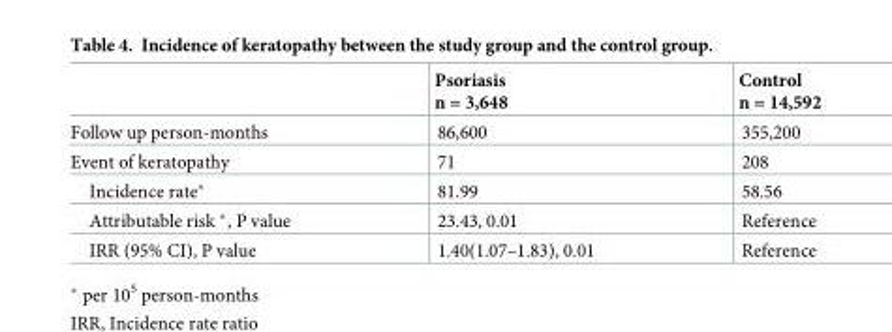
<table><thead><tr><td></td><td>Psoriasis n = 3,648</td><td>Control n = 14,592</td></tr></thead><tbody><tr><td>Follow up person-months</td><td>86,600</td><td>355,200</td></tr><tr><td>Event of keratopathy</td><td>71</td><td>208</td></tr><tr><td>Incidence rate*</td><td>81.99</td><td>58.56</td></tr><tr><td>Attributable risk *, P value</td><td>23.43, 0.01</td><td>Reference</td></tr><tr><td>IRR (95% CI), P value</td><td>1.40(1.07–1.83), 0.01</td><td>Reference</td></tr></tbody></table>